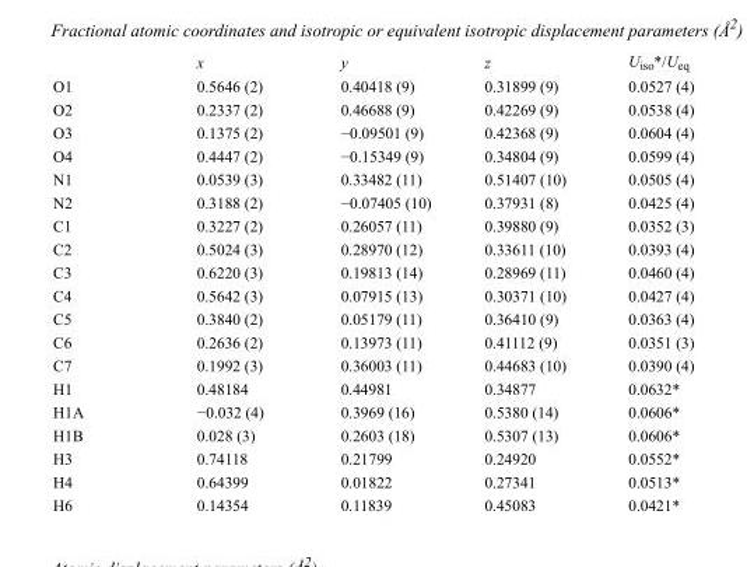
<table><thead><tr><td></td><td>x</td><td>y</td><td>z</td><td>U<sub>iso</sub>*/U<sub>eq</sub></td></tr></thead><tbody><tr><td>O1</td><td>0.5646 (2)</td><td>0.40418 (9)</td><td>0.31899 (9)</td><td>0.0527 (4)</td></tr><tr><td>O2</td><td>0.2337 (2)</td><td>0.46688 (9)</td><td>0.42269 (9)</td><td>0.0538 (4)</td></tr><tr><td>O3</td><td>0.1375 (2)</td><td>−0.09501 (9)</td><td>0.42368 (9)</td><td>0.0604 (4)</td></tr><tr><td>O4</td><td>0.4447 (2)</td><td>−0.15349 (9)</td><td>0.34804 (9)</td><td>0.0599 (4)</td></tr><tr><td>N1</td><td>0.0539 (3)</td><td>0.33482 (11)</td><td>0.51407 (10)</td><td>0.0505 (4)</td></tr><tr><td>N2</td><td>0.3188 (2)</td><td>−0.07405 (10)</td><td>0.37931 (8)</td><td>0.0425 (4)</td></tr><tr><td>C1</td><td>0.3227 (2)</td><td>0.26057 (11)</td><td>0.39880 (9)</td><td>0.0352 (3)</td></tr><tr><td>C2</td><td>0.5024 (3)</td><td>0.28970 (12)</td><td>0.33611 (10)</td><td>0.0393 (4)</td></tr><tr><td>C3</td><td>0.6220 (3)</td><td>0.19813 (14)</td><td>0.28969 (11)</td><td>0.0460 (4)</td></tr><tr><td>C4</td><td>0.5642 (3)</td><td>0.07915 (13)</td><td>0.30371 (10)</td><td>0.0427 (4)</td></tr><tr><td>C5</td><td>0.3840 (2)</td><td>0.05179 (11)</td><td>0.36410 (9)</td><td>0.0363 (4)</td></tr><tr><td>C6</td><td>0.2636 (2)</td><td>0.13973 (11)</td><td>0.41112 (9)</td><td>0.0351 (3)</td></tr><tr><td>C7</td><td>0.1992 (3)</td><td>0.36003 (11)</td><td>0.44683 (10)</td><td>0.0390 (4)</td></tr><tr><td>H1</td><td>0.48184</td><td>0.44981</td><td>0.34877</td><td>0.0632*</td></tr><tr><td>H1A</td><td>−0.032 (4)</td><td>0.3969 (16)</td><td>0.5380 (14)</td><td>0.0606*</td></tr><tr><td>H1B</td><td>0.028 (3)</td><td>0.2603 (18)</td><td>0.5307 (13)</td><td>0.0606*</td></tr><tr><td>H3</td><td>0.74118</td><td>0.21799</td><td>0.24920</td><td>0.0552*</td></tr><tr><td>H4</td><td>0.64399</td><td>0.01822</td><td>0.27341</td><td>0.0513*</td></tr><tr><td>H6</td><td>0.14354</td><td>0.11839</td><td>0.45083</td><td>0.0421*</td></tr></tbody></table>